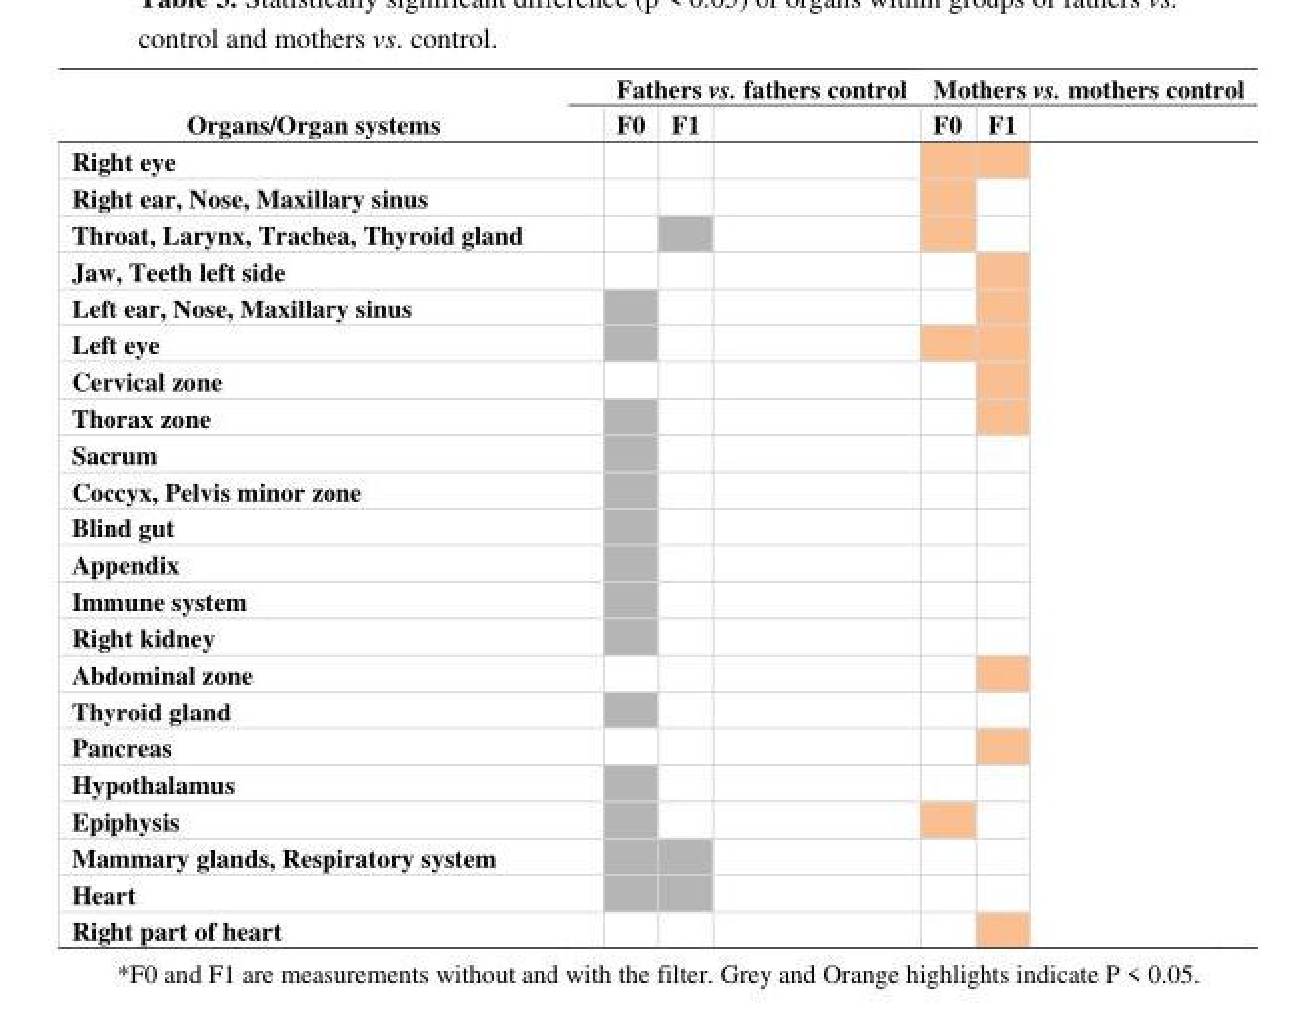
<table><thead><tr><td rowspan="2">Organs/Organ systems</td><td colspan="2">Fathers vs. fathers control</td><td colspan="2">Mothers vs. mothers control</td></tr><tr><td>F0</td><td>F1</td><td>F0</td><td>F1</td></tr></thead><tbody><tr><td colspan="5">Right eye</td></tr><tr><td colspan="5">Right ear, Nose, Maxillary sinus</td></tr><tr><td colspan="5">Throat, Larynx, Trachea, Thyroid gland</td></tr><tr><td colspan="5">Jaw, Teeth left side</td></tr><tr><td colspan="5">Left ear, Nose, Maxillary sinus</td></tr><tr><td colspan="5">Left eye</td></tr><tr><td colspan="5">Cervical zone</td></tr><tr><td colspan="5">Thorax zone</td></tr><tr><td colspan="5">Sacrum</td></tr><tr><td colspan="5">Coccyx, Pelvis minor zone</td></tr><tr><td colspan="5">Blind gut</td></tr><tr><td colspan="5">Appendix</td></tr><tr><td colspan="5">Immune system</td></tr><tr><td colspan="5">Right kidney</td></tr><tr><td colspan="5">Abdominal zone</td></tr><tr><td colspan="5">Thyroid gland</td></tr><tr><td colspan="5">Pancreas</td></tr><tr><td colspan="5">Hypothalamus</td></tr><tr><td colspan="5">Epiphysis</td></tr><tr><td colspan="5">Mammary glands, Respiratory system</td></tr><tr><td colspan="5">Heart</td></tr><tr><td>Right part of heart</td><td></td><td></td><td></td><td></td></tr></tbody></table>